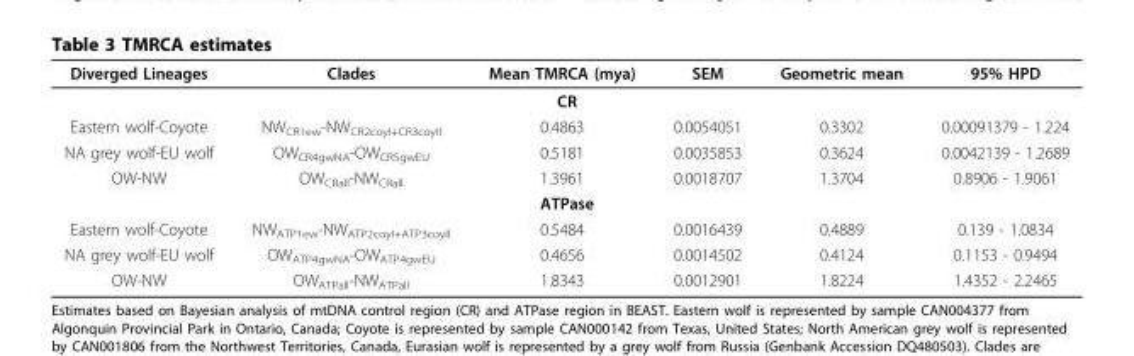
<table><thead><tr><td>Diverged Lineages</td><td>Clades</td><td>Mean TMRCA (mya)</td><td>SEM</td><td>Geometric mean</td><td>95% HPD</td></tr></thead><tbody><tr><td colspan="6">CR</td></tr><tr><td>Eastern wolf-Coyote</td><td>NW<sub>CR1ew</sub>-NW<sub>CR2coyI+CR3coyII</sub></td><td>0.4863</td><td>0.0054051</td><td>0.3302</td><td>0.00091379 - 1.224</td></tr><tr><td>NA grey wolf-EU wolf</td><td>OW<sub>CR4gwNA</sub>-OW<sub>CR5gwEU</sub></td><td>0.5181</td><td>0.0035853</td><td>0.3624</td><td>0.0042139 - 1.2689</td></tr><tr><td>OW-NW</td><td>OW<sub>CRall</sub>-NW<sub>CRall</sub></td><td>1.3961</td><td>0.0018707</td><td>1.3704</td><td>0.8906 - 1.9061</td></tr><tr><td colspan="6">ATPase</td></tr><tr><td>Eastern wolf-Coyote</td><td>NW<sub>ATP1ew</sub>-NW<sub>ATP2coyI+ATP3coyII</sub></td><td>0.5484</td><td>0.0016439</td><td>0.4889</td><td>0.139 - 1.0834</td></tr><tr><td>NA grey wolf-EU wolf</td><td>OW<sub>ATP4gwNA</sub>-OW<sub>ATP4gwEU</sub></td><td>0.4656</td><td>0.0014502</td><td>0.4124</td><td>0.1153 - 0.9494</td></tr><tr><td>OW-NW</td><td>OW<sub>ATPall</sub>-NW<sub>ATPall</sub></td><td>1.8343</td><td>0.0012901</td><td>1.8224</td><td>1.4352 - 2.2465</td></tr></tbody></table>